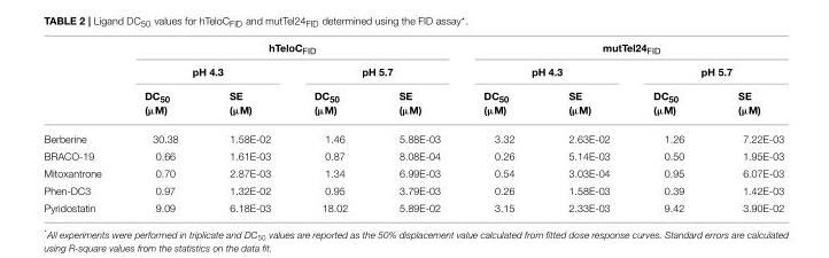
<table><thead><tr><td rowspan="3"></td><td colspan="4">hTeloC<sub>FID</sub></td><td colspan="4">mutTel24<sub>FID</sub></td></tr><tr><td colspan="2">pH 4.3</td><td colspan="2">pH 5.7</td><td colspan="2">pH 4.3</td><td colspan="2">pH 5.7</td></tr><tr><td>DC<sub>50</sub> (µM)</td><td>SE (µM)</td><td>DC<sub>50</sub> (µM)</td><td>SE (µM)</td><td>DC<sub>50</sub> (µM)</td><td>SE (µM)</td><td>DC<sub>50</sub> (µM)</td><td>SE (µM)</td></tr></thead><tbody><tr><td>Berberine</td><td>30.38</td><td>1.58E-02</td><td>1.46</td><td>5.88E-03</td><td>3.32</td><td>2.63E-02</td><td>1.26</td><td>7.22E-03</td></tr><tr><td>BRACO-19</td><td>0.66</td><td>1.61E-03</td><td>0.87</td><td>8.08E-04</td><td>0.26</td><td>5.14E-03</td><td>0.50</td><td>1.95E-03</td></tr><tr><td>Mitoxantrone</td><td>0.70</td><td>2.87E-03</td><td>1.34</td><td>6.99E-03</td><td>0.54</td><td>3.03E-04</td><td>0.95</td><td>6.07E-03</td></tr><tr><td>Phen-DC3</td><td>0.97</td><td>1.32E-02</td><td>0.95</td><td>3.79E-03</td><td>0.26</td><td>1.58E-03</td><td>0.39</td><td>1.42E-03</td></tr><tr><td>Pyridostatin</td><td>9.09</td><td>6.18E-03</td><td>18.02</td><td>5.89E-02</td><td>3.15</td><td>2.33E-03</td><td>9.42</td><td>3.90E-02</td></tr></tbody></table>